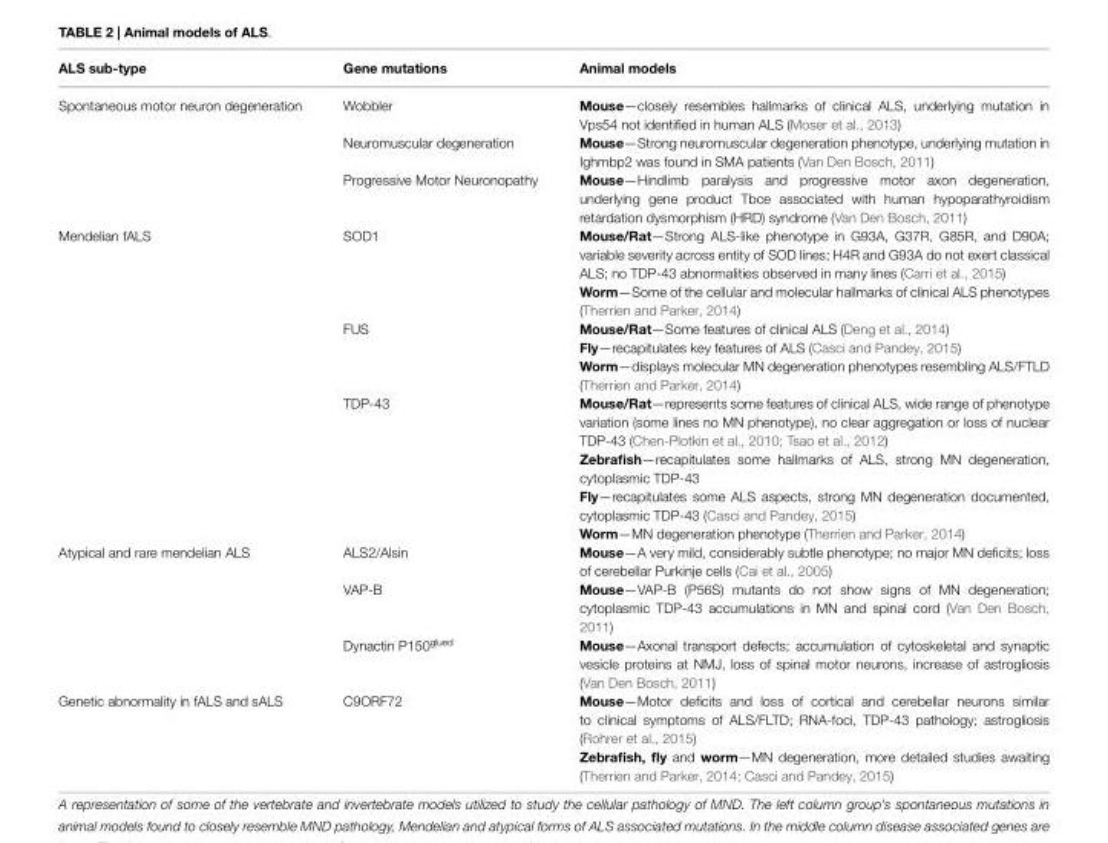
<table><thead><tr><td>ALS sub-type</td><td>Gene mutations</td><td>Animal models</td></tr></thead><tbody><tr><td rowspan="3">Spontaneous motor neuron degeneration</td><td>Wobbler</td><td>Mouse—closely resembles hallmarks of clinical ALS, underlying mutation in Vps54 not identified in human ALS (Moser et al., 2013)</td></tr><tr><td>Neuromuscular degeneration</td><td>Mouse—Strong neuromuscular degeneration phenotype, underlying mutation in Ighmbp2 was found in SMA patients (Van Den Bosch, 2011)</td></tr><tr><td>Progressive Motor Neuronopathy</td><td>Mouse—Hindlimb paralysis and progressive motor axon degeneration, underlying gene product Tbce associated with human hypoparathyroidism retardation dysmorphism (HRD) syndrome (Van Den Bosch, 2011)</td></tr><tr><td rowspan="3">Mendelian fALS</td><td>SOD1</td><td>Mouse/Rat—Strong ALS-like phenotype in G93A, G37R, G85R, and D90A; variable severity across entity of SOD lines; H4R and G93A do not exert classical ALS; no TDP-43 abnormalities observed in many lines (Carri et al., 2015) Worm—Some of the cellular and molecular hallmarks of clinical ALS phenotypes (Therrien and Parker, 2014)</td></tr><tr><td>FUS</td><td>Mouse/Rat—Some features of clinical ALS (Deng et al., 2014) Fly—recapitulates key features of ALS (Casci and Pandey, 2015) Worm—displays molecular MN degeneration phenotypes resembling ALS/FTLD (Therrien and Parker, 2014)</td></tr><tr><td>TDP-43</td><td>Mouse/Rat—represents some features of clinical ALS, wide range of phenotype variation (some lines no MN phenotype), no clear aggregation or loss of nuclear TDP-43 (Chen-Plotkin et al., 2010; Tsao et al., 2012) Zebrafish—recapitulates some hallmarks of ALS, strong MN degeneration, cytoplasmic TDP-43 Fly—recapitulates some ALS aspects, strong MN degeneration documented, cytoplasmic TDP-43 (Casci and Pandey, 2015) Worm—MN degeneration phenotype (Therrien and Parker, 2014)</td></tr><tr><td rowspan="3">Atypical and rare mendelian ALS</td><td>ALS2/Alsin</td><td>Mouse—A very mild, considerably subtle phenotype; no major MN deficits; loss of cerebellar Purkinje cells (Cai et al., 2005)</td></tr><tr><td>VAP-B</td><td>Mouse—VAP-B (P56S) mutants do not show signs of MN degeneration; cytoplasmic TDP-43 accumulations in MN and spinal cord (Van Den Bosch, 2011)</td></tr><tr><td>Dynactin P150<sup>glued</sup></td><td>Mouse—Axonal transport defects; accumulation of cytoskeletal and synaptic vesicle proteins at NMJ, loss of spinal motor neurons, increase of astrogliosis (Van Den Bosch, 2011)</td></tr><tr><td>Genetic abnormality in fALS and sALS</td><td>C9ORF72</td><td>Mouse—Motor deficits and loss of cortical and cerebellar neurons similar to clinical symptoms of ALS/FLTD; RNA-foci, TDP-43 pathology; astrogliosis (Rohrer et al., 2015) Zebrafish, fly and worm—MN degeneration, more detailed studies awaiting (Therrien and Parker, 2014; Casci and Pandey, 2015)</td></tr></tbody></table>